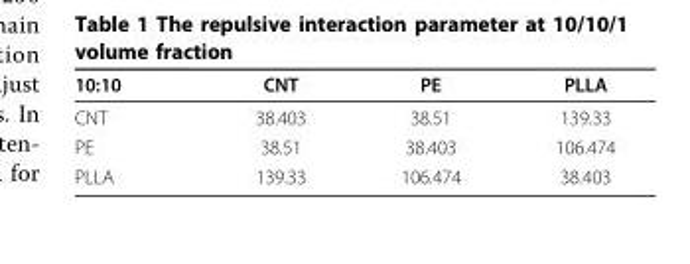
<table><thead><tr><td>10:10</td><td>CNT</td><td>PE</td><td>PLLA</td></tr></thead><tbody><tr><td>CNT</td><td>38.403</td><td>38.51</td><td>139.33</td></tr><tr><td>PE</td><td>38.51</td><td>38.403</td><td>106.474</td></tr><tr><td>PLLA</td><td>139.33</td><td>106.474</td><td>38.403</td></tr></tbody></table>